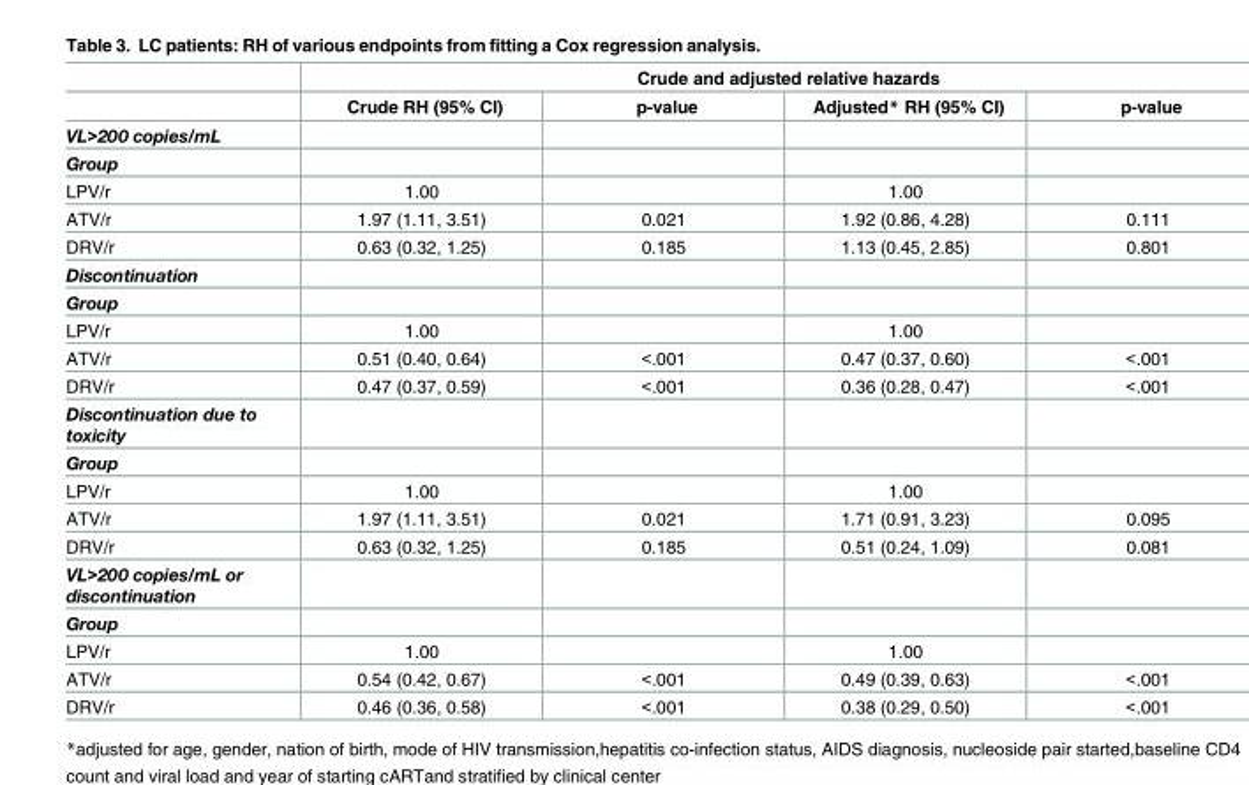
<table><thead><tr><td rowspan="2"></td><td colspan="4">Crude and adjusted relative hazards</td></tr><tr><td>Crude RH (95% CI)</td><td>p-value</td><td>Adjusted* RH (95% CI)</td><td>p-value</td></tr></thead><tbody><tr><td colspan="5">VL&gt;200 copies/mL</td></tr><tr><td colspan="5">Group</td></tr><tr><td>LPV/r</td><td>1.00</td><td></td><td>1.00</td><td></td></tr><tr><td>ATV/r</td><td>1.97 (1.11, 3.51)</td><td>0.021</td><td>1.92 (0.86, 4.28)</td><td>0.111</td></tr><tr><td>DRV/r</td><td>0.63 (0.32, 1.25)</td><td>0.185</td><td>1.13 (0.45, 2.85)</td><td>0.801</td></tr><tr><td colspan="5">Discontinuation</td></tr><tr><td colspan="5">Group</td></tr><tr><td>LPV/r</td><td>1.00</td><td></td><td>1.00</td><td></td></tr><tr><td>ATV/r</td><td>0.51 (0.40, 0.64)</td><td>&lt;.001</td><td>0.47 (0.37, 0.60)</td><td>&lt;.001</td></tr><tr><td>DRV/r</td><td>0.47 (0.37, 0.59)</td><td>&lt;.001</td><td>0.36 (0.28, 0.47)</td><td>&lt;.001</td></tr><tr><td colspan="5">Discontinuation due to toxicity</td></tr><tr><td colspan="5">Group</td></tr><tr><td>LPV/r</td><td>1.00</td><td></td><td>1.00</td><td></td></tr><tr><td>ATV/r</td><td>1.97 (1.11, 3.51)</td><td>0.021</td><td>1.71 (0.91, 3.23)</td><td>0.095</td></tr><tr><td>DRV/r</td><td>0.63 (0.32, 1.25)</td><td>0.185</td><td>0.51 (0.24, 1.09)</td><td>0.081</td></tr><tr><td colspan="5">VL&gt;200 copies/mL or discontinuation</td></tr><tr><td colspan="5">Group</td></tr><tr><td>LPV/r</td><td>1.00</td><td></td><td>1.00</td><td></td></tr><tr><td>ATV/r</td><td>0.54 (0.42, 0.67)</td><td>&lt;.001</td><td>0.49 (0.39, 0.63)</td><td>&lt;.001</td></tr><tr><td>DRV/r</td><td>0.46 (0.36, 0.58)</td><td>&lt;.001</td><td>0.38 (0.29, 0.50)</td><td>&lt;.001</td></tr></tbody></table>